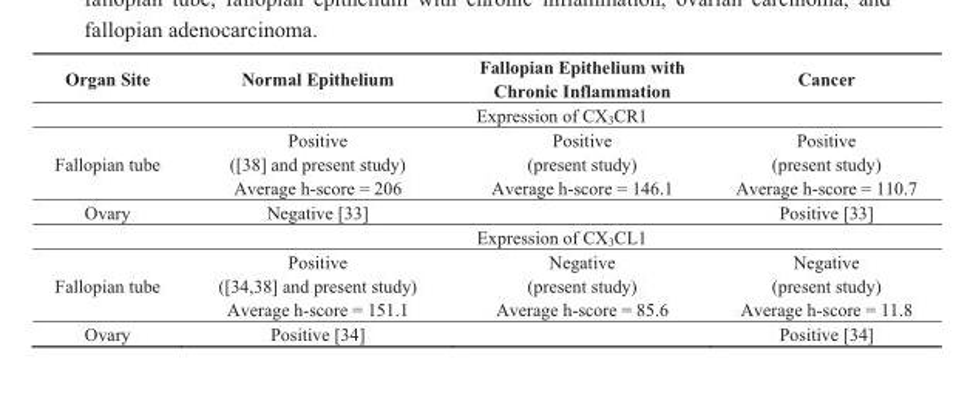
<table><thead><tr><td>Organ Site</td><td>Normal Epithelium</td><td>Fallopian Epithelium with Chronic Inflammation</td><td>Cancer</td></tr></thead><tbody><tr><td></td><td colspan="3">Expression of CX<sub>3</sub>CR1</td></tr><tr><td>Fallopian tube</td><td>Positive ([38] and present study) Average h-score = 206</td><td>Positive (present study) Average h-score = 146.1</td><td>Positive (present study) Average h-score = 110.7</td></tr><tr><td rowspan="2">Ovary</td><td>Negative [33]</td><td></td><td>Positive [33]</td></tr><tr><td colspan="3">Expression of CX<sub>3</sub>CL1</td></tr><tr><td>Fallopian tube</td><td>Positive ([34,38] and present study) Average h-score = 151.1</td><td>Negative (present study) Average h-score = 85.6</td><td>Negative (present study) Average h-score = 11.8</td></tr><tr><td>Ovary</td><td>Positive [34]</td><td></td><td>Positive [34]</td></tr></tbody></table>